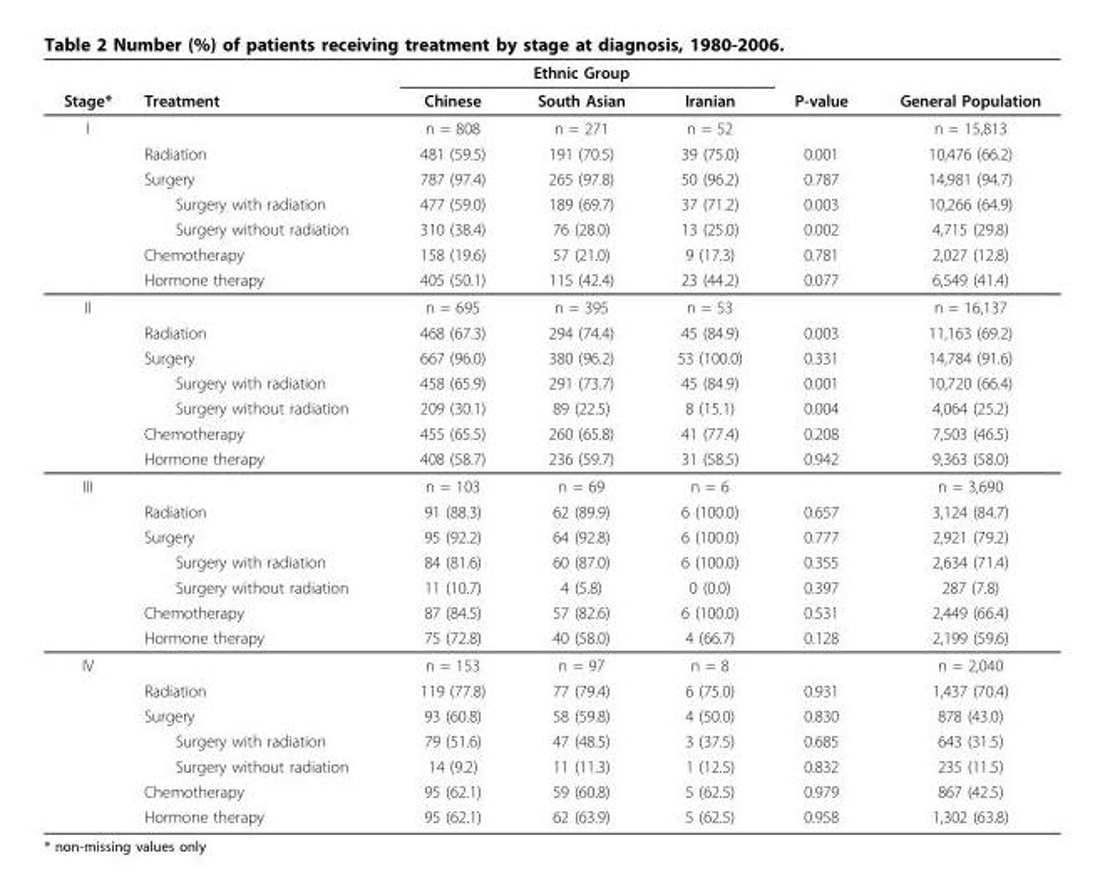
<table><thead><tr><td rowspan="2">Stage*</td><td rowspan="2">Treatment</td><td colspan="3">Ethnic Group</td><td rowspan="2">P-value</td><td rowspan="2">General Population</td></tr><tr><td>Chinese</td><td>South Asian</td><td>Iranian</td></tr></thead><tbody><tr><td rowspan="7">I</td><td></td><td>n = 808</td><td>n = 271</td><td>n = 52</td><td></td><td>n = 15,813</td></tr><tr><td>Radiation</td><td>481 (59.5)</td><td>191 (70.5)</td><td>39 (75.0)</td><td>0.001</td><td>10,476 (66.2)</td></tr><tr><td>Surgery</td><td>787 (97.4)</td><td>265 (97.8)</td><td>50 (96.2)</td><td>0.787</td><td>14,981 (94.7)</td></tr><tr><td>Surgery with radiation</td><td>477 (59.0)</td><td>189 (69.7)</td><td>37 (71.2)</td><td>0.003</td><td>10,266 (64.9)</td></tr><tr><td>Surgery without radiation</td><td>310 (38.4)</td><td>76 (28.0)</td><td>13 (25.0)</td><td>0.002</td><td>4,715 (29.8)</td></tr><tr><td>Chemotherapy</td><td>158 (19.6)</td><td>57 (21.0)</td><td>9 (17.3)</td><td>0.781</td><td>2,027 (12.8)</td></tr><tr><td>Hormone therapy</td><td>405 (50.1)</td><td>115 (42.4)</td><td>23 (44.2)</td><td>0.077</td><td>6,549 (41.4)</td></tr><tr><td rowspan="7">II</td><td></td><td>n = 695</td><td>n = 395</td><td>n = 53</td><td></td><td>n = 16,137</td></tr><tr><td>Radiation</td><td>468 (67.3)</td><td>294 (74.4)</td><td>45 (84.9)</td><td>0.003</td><td>11,163 (69.2)</td></tr><tr><td>Surgery</td><td>667 (96.0)</td><td>380 (96.2)</td><td>53 (100.0)</td><td>0.331</td><td>14,784 (91.6)</td></tr><tr><td>Surgery with radiation</td><td>458 (65.9)</td><td>291 (73.7)</td><td>45 (84.9)</td><td>0.001</td><td>10,720 (66.4)</td></tr><tr><td>Surgery without radiation</td><td>209 (30.1)</td><td>89 (22.5)</td><td>8 (15.1)</td><td>0.004</td><td>4,064 (25.2)</td></tr><tr><td>Chemotherapy</td><td>455 (65.5)</td><td>260 (65.8)</td><td>41 (77.4)</td><td>0.208</td><td>7,503 (46.5)</td></tr><tr><td>Hormone therapy</td><td>408 (58.7)</td><td>236 (59.7)</td><td>31 (58.5)</td><td>0.942</td><td>9,363 (58.0)</td></tr><tr><td rowspan="7">III</td><td></td><td>n = 103</td><td>n = 69</td><td>n = 6</td><td></td><td>n = 3,690</td></tr><tr><td>Radiation</td><td>91 (88.3)</td><td>62 (89.9)</td><td>6 (100.0)</td><td>0.657</td><td>3,124 (84.7)</td></tr><tr><td>Surgery</td><td>95 (92.2)</td><td>64 (92.8)</td><td>6 (100.0)</td><td>0.777</td><td>2,921 (79.2)</td></tr><tr><td>Surgery with radiation</td><td>84 (81.6)</td><td>60 (87.0)</td><td>6 (100.0)</td><td>0.355</td><td>2,634 (71.4)</td></tr><tr><td>Surgery without radiation</td><td>11 (10.7)</td><td>4 (5.8)</td><td>0 (0.0)</td><td>0.397</td><td>287 (7.8)</td></tr><tr><td>Chemotherapy</td><td>87 (84.5)</td><td>57 (82.6)</td><td>6 (100.0)</td><td>0.531</td><td>2,449 (66.4)</td></tr><tr><td>Hormone therapy</td><td>75 (72.8)</td><td>40 (58.0)</td><td>4 (66.7)</td><td>0.128</td><td>2,199 (59.6)</td></tr><tr><td rowspan="7">IV</td><td></td><td>n = 153</td><td>n = 97</td><td>n = 8</td><td></td><td>n = 2,040</td></tr><tr><td>Radiation</td><td>119 (77.8)</td><td>77 (79.4)</td><td>6 (75.0)</td><td>0.931</td><td>1,437 (70.4)</td></tr><tr><td>Surgery</td><td>93 (60.8)</td><td>58 (59.8)</td><td>4 (50.0)</td><td>0.830</td><td>878 (43.0)</td></tr><tr><td>Surgery with radiation</td><td>79 (51.6)</td><td>47 (48.5)</td><td>3 (37.5)</td><td>0.685</td><td>643 (31.5)</td></tr><tr><td>Surgery without radiation</td><td>14 (9.2)</td><td>11 (11.3)</td><td>1 (12.5)</td><td>0.832</td><td>235 (11.5)</td></tr><tr><td>Chemotherapy</td><td>95 (62.1)</td><td>59 (60.8)</td><td>5 (62.5)</td><td>0.979</td><td>867 (42.5)</td></tr><tr><td>Hormone therapy</td><td>95 (62.1)</td><td>62 (63.9)</td><td>5 (62.5)</td><td>0.958</td><td>1,302 (63.8)</td></tr></tbody></table>